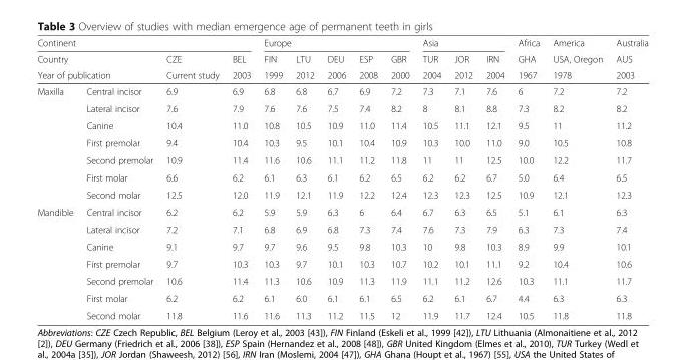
<table><thead><tr><td colspan="4">Continent</td><td colspan="5">Europe</td><td colspan="3">Asia</td><td rowspan="3">Africa GHA 1967</td><td rowspan="3">America USA, Oregon 1978</td><td rowspan="3">Australia AUS 2003</td></tr><tr><td>Country</td><td></td><td rowspan="2">CZE Current study</td><td rowspan="2">BEL 2003</td><td rowspan="2">FIN 1999</td><td rowspan="2">LTU 2012</td><td rowspan="2">DEU 2006</td><td rowspan="2">ESP 2008</td><td rowspan="2">GBR 2000</td><td rowspan="2">TUR 2004</td><td rowspan="2">JOR 2012</td><td rowspan="2">IRN 2004</td></tr><tr><td colspan="2">Year of publication</td></tr></thead><tbody><tr><td rowspan="7">Maxilla</td><td>Central incisor</td><td>6.9</td><td>6.9</td><td>6.8</td><td>6.8</td><td>6.7</td><td>6.9</td><td>7.2</td><td>7.3</td><td>7.1</td><td>7.6</td><td>6</td><td>7.2</td><td>7.2</td></tr><tr><td>Lateral incisor</td><td>7.6</td><td>7.9</td><td>7.6</td><td>7.6</td><td>7.5</td><td>7.4</td><td>8.2</td><td>8</td><td>8.1</td><td>8.8</td><td>7.3</td><td>8.2</td><td>8.2</td></tr><tr><td>Canine</td><td>10.4</td><td>11.0</td><td>10.8</td><td>10.5</td><td>10.9</td><td>11.0</td><td>11.4</td><td>10.5</td><td>11.1</td><td>12.1</td><td>9.5</td><td>11</td><td>11.2</td></tr><tr><td>First premolar</td><td>9.4</td><td>10.4</td><td>10.3</td><td>9.5</td><td>10.1</td><td>10.4</td><td>10.9</td><td>10.3</td><td>10.0</td><td>11.0</td><td>9.0</td><td>10.5</td><td>10.8</td></tr><tr><td>Second premolar</td><td>10.9</td><td>11.4</td><td>11.6</td><td>10.6</td><td>11.1</td><td>11.2</td><td>11.8</td><td>11</td><td>11</td><td>12.5</td><td>10.0</td><td>12.2</td><td>11.7</td></tr><tr><td>First molar</td><td>6.6</td><td>6.2</td><td>6.1</td><td>6.3</td><td>6.1</td><td>6.2</td><td>6.5</td><td>6.2</td><td>6.2</td><td>6.7</td><td>5.0</td><td>6.4</td><td>6.5</td></tr><tr><td>Second molar</td><td>12.5</td><td>12.0</td><td>11.9</td><td>12.1</td><td>11.9</td><td>12.2</td><td>12.4</td><td>12.3</td><td>12.3</td><td>12.5</td><td>10.9</td><td>12.1</td><td>12.3</td></tr><tr><td rowspan="7">Mandible</td><td>Central incisor</td><td>6.2</td><td>6.2</td><td>5.9</td><td>5.9</td><td>6.3</td><td>6</td><td>6.4</td><td>6.7</td><td>6.3</td><td>6.5</td><td>5.1</td><td>6.1</td><td>6.3</td></tr><tr><td>Lateral incisor</td><td>7.2</td><td>7.1</td><td>6.8</td><td>6.9</td><td>6.8</td><td>7.3</td><td>7.4</td><td>7.6</td><td>7.3</td><td>7.9</td><td>6.3</td><td>7.3</td><td>7.4</td></tr><tr><td>Canine</td><td>9.1</td><td>9.7</td><td>9.7</td><td>9.6</td><td>9.5</td><td>9.8</td><td>10.3</td><td>10</td><td>9.8</td><td>10.3</td><td>8.9</td><td>9.9</td><td>10.1</td></tr><tr><td>First premolar</td><td>9.7</td><td>10.3</td><td>10.3</td><td>9.7</td><td>10.1</td><td>10.3</td><td>10.7</td><td>10.2</td><td>10.1</td><td>11.1</td><td>9.2</td><td>10.4</td><td>10.6</td></tr><tr><td>Second premolar</td><td>10.6</td><td>11.4</td><td>11.3</td><td>10.6</td><td>10.9</td><td>11.3</td><td>11.9</td><td>11.1</td><td>11.2</td><td>12.6</td><td>10.3</td><td>11.1</td><td>11.7</td></tr><tr><td>First molar</td><td>6.2</td><td>6.2</td><td>6.1</td><td>6.0</td><td>6.1</td><td>6.1</td><td>6.5</td><td>6.2</td><td>6.1</td><td>6.7</td><td>4.4</td><td>6.3</td><td>6.3</td></tr><tr><td>Second molar</td><td>11.8</td><td>11.6</td><td>11.6</td><td>11.3</td><td>11.2</td><td>11.5</td><td>12</td><td>11.9</td><td>11.7</td><td>12.4</td><td>10.5</td><td>11.8</td><td>11.8</td></tr></tbody></table>